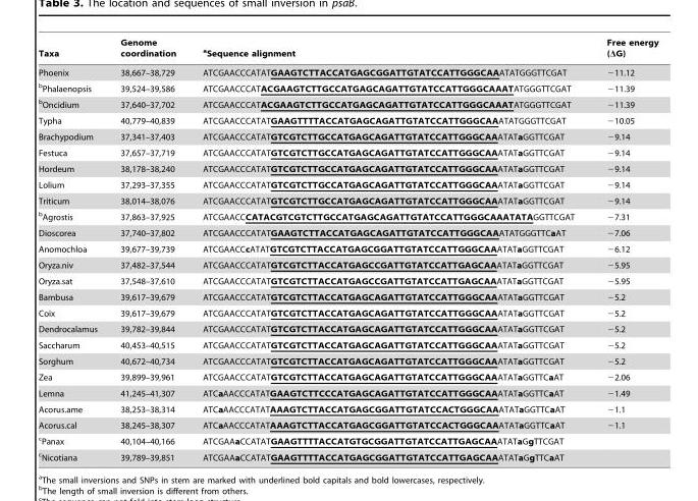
<table><thead><tr><td>Taxa</td><td>Genome coordination</td><td>aSequence alignment</td><td>Free energy (ΔG)</td></tr></thead><tbody><tr><td>Phoenix</td><td>38,667–38,729</td><td>ATCGAACCCATATGAAGTCTTACCATGAGCGGATTGTATCCATTGGGCAAATATGGGTTCGAT</td><td>−11.12</td></tr><tr><td>bPhalaenopsis</td><td>39,524–39,586</td><td>ATCGAACCCATACGAAGTCTTGCCATGAGCAGATTGTATCCATTGGGCAAATATGGGTTCGAT</td><td>−11.39</td></tr><tr><td>bOncidium</td><td>37,640–37,702</td><td>ATCGAACCCATACGAAGTCTTGCCATGAGCAGATTGTATCCATTGGGCAAATATGGGTTCGAT</td><td>−11.39</td></tr><tr><td>Typha</td><td>40,779–40,839</td><td>ATCGAACCCATATGAAGTTTTACCATGAGCAGATTGTATCCATTGGGCAAATATGGGTTCGAT</td><td>−10.05</td></tr><tr><td>Brachypodium</td><td>37,341–37,403</td><td>ATCGAACCCATATGTCGTCTTGCCATGAGCAGATTGTATCCATTGGGCAAATATaGGTTCGAT</td><td>−9.14</td></tr><tr><td>Festuca</td><td>37,657–37,719</td><td>ATCGAACCCATATGTCGTCTTGCCATGAGCAGATTGTATCCATTGGGCAAATATaGGTTCGAT</td><td>−9.14</td></tr><tr><td>Hordeum</td><td>38,178–38,240</td><td>ATCGAACCCATATGTCGTCTTGCCATGAGCAGATTGTATCCATTGGGCAAATATaGGTTCGAT</td><td>−9.14</td></tr><tr><td>Lolium</td><td>37,293–37,355</td><td>ATCGAACCCATATGTCGTCTTGCCATGAGCAGATTGTATCCATTGGGCAAATATaGGTTCGAT</td><td>−9.14</td></tr><tr><td>Triticum</td><td>38,014–38,076</td><td>ATCGAACCCATATGTCGTCTTGCCATGAGCAGATTGTATCCATTGGGCAAATATaGGTTCGAT</td><td>−9.14</td></tr><tr><td>bAgrostis</td><td>37,863–37,925</td><td>ATCGAACCCATACGTCGTCTTGCCATGAGCAGATTGTATCCATTGGGCAAATATAGGTTCGAT</td><td>−7.31</td></tr><tr><td>Dioscorea</td><td>37,740–37,802</td><td>ATCGAACCCATATGAAGTCTTACCATGAGCAGATTGTATCCATTGGGCAAATATGGGTTCaAT</td><td>−7.06</td></tr><tr><td>Anomochloa</td><td>39,677–39,739</td><td>ATCGAACCcATATGTCGTCTTACCATGAGCGGATTGTATCCATTGGGCAAATATaGGTTCGAT</td><td>−6.12</td></tr><tr><td>Oryza.niv</td><td>37,482–37,544</td><td>ATCGAACCCATATGTCGTCTTACCATGAGCCGATTGTATCCATTGAGCAAATATaGGTTCGAT</td><td>−5.95</td></tr><tr><td>Oryza.sat</td><td>37,548–37,610</td><td>ATCGAACCCATATGTCGTCTTACCATGAGCCGATTGTATCCATTGAGCAAATATaGGTTCGAT</td><td>−5.95</td></tr><tr><td>Bambusa</td><td>39,617–39,679</td><td>ATCGAACCCATATGTCGTCTTACCATGAGCAGATTGTATCCATTGGGCAAATATaGGTTCGAT</td><td>−5.2</td></tr><tr><td>Coix</td><td>39,617–39,679</td><td>ATCGAACCCATATGTCGTCTTACCATGAGCAGATTGTATCCATTGGGCAAATATaGGTTCGAT</td><td>−5.2</td></tr><tr><td>Dendrocalamus</td><td>39,782–39,844</td><td>ATCGAACCCATATGTCGTCTTACCATGAGCAGATTGTATCCATTGGGCAAATATaGGTTCGAT</td><td>−5.2</td></tr><tr><td>Saccharum</td><td>40,453–40,515</td><td>ATCGAACCCATATGTCGTCTTACCATGAGCAGATTGTATCCATTGGGCAAATATaGGTTCGAT</td><td>−5.2</td></tr><tr><td>Sorghum</td><td>40,672–40,734</td><td>ATCGAACCCATATGTCGTCTTACCATGAGCAGATTGTATCCATTGGGCAAATATaGGTTCGAT</td><td>−5.2</td></tr><tr><td>Zea</td><td>39,899–39,961</td><td>ATCGAACCCATATGTCGTCTTACCATGAGCAGATTGTATCCATTGGGCAAATATaGGTTCaAT</td><td>−2.06</td></tr><tr><td>Lemna</td><td>41,245–41,307</td><td>ATCaAACCCATATGAAGTCTTCCCATGAGCAGATTGTATCCATTGGGCAAATATaGGTTCaAT</td><td>−1.49</td></tr><tr><td>Acorus.ame</td><td>38,253–38,314</td><td>ATCaAACCCATATAAAGTCTTACCATGAGCGGATTGTATCCACTGGGCAAATATaGGTTCaAT</td><td>−1.1</td></tr><tr><td>Acorus.cal</td><td>38,245–38,307</td><td>ATCaAACCCATATAAAGTCTTACCATGAGCGGATTGTATCCACTGGGCAAATATaGGTTCaAT</td><td>−1.1</td></tr><tr><td>cPanax</td><td>40,104–40,166</td><td>ATCGAAaCCATATGAAGTTTTACCATGTGCGGATTGTATCCATTGAGCAAATATaGgTTCGAT</td><td></td></tr><tr><td>cNicotiana</td><td>39,789–39,851</td><td>ATCGAAaCCATATGAAGTTTTACCATGAGCGGATTGTATCCATTGAGCAAATATaGgTTCaAT</td><td></td></tr></tbody></table>